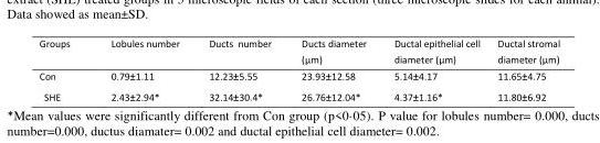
<table><thead><tr><td>Groups</td><td>Lobules number</td><td>Ducts number</td><td>Ducts diameter (µm)</td><td>Ductal epithelial cell diameter (µm)</td><td>Ductal stromal diameter (µm)</td></tr></thead><tbody><tr><td>Con</td><td>0.79±1.11</td><td>12.23±5.55</td><td>23.93±12.58</td><td>5.14±4.17</td><td>11.65±4.75</td></tr><tr><td>SHE</td><td>2.43±2.94*</td><td>32.14±30.4*</td><td>26.76±12.04*</td><td>4.37±1.16*</td><td>11.80±6.92</td></tr></tbody></table>